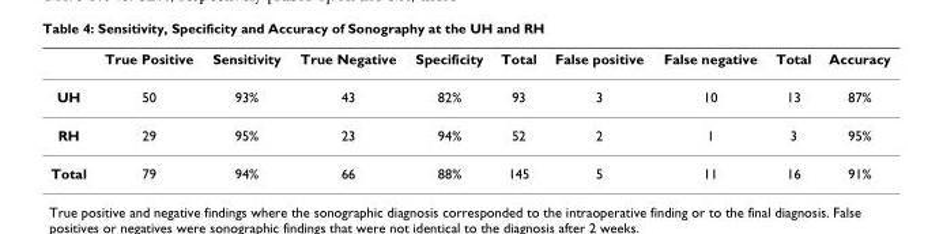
<table><thead><tr><td></td><td>True Positive</td><td>Sensitivity</td><td>True Negative</td><td>Specificity</td><td>Total</td><td>False positive</td><td>False negative</td><td>Total</td><td>Accuracy</td></tr></thead><tbody><tr><td>UH</td><td>50</td><td>93%</td><td>43</td><td>82%</td><td>93</td><td>3</td><td>10</td><td>13</td><td>87%</td></tr><tr><td>RH</td><td>29</td><td>95%</td><td>23</td><td>94%</td><td>52</td><td>2</td><td>1</td><td>3</td><td>95%</td></tr><tr><td>Total</td><td>79</td><td>94%</td><td>66</td><td>88%</td><td>145</td><td>5</td><td>11</td><td>16</td><td>91%</td></tr></tbody></table>